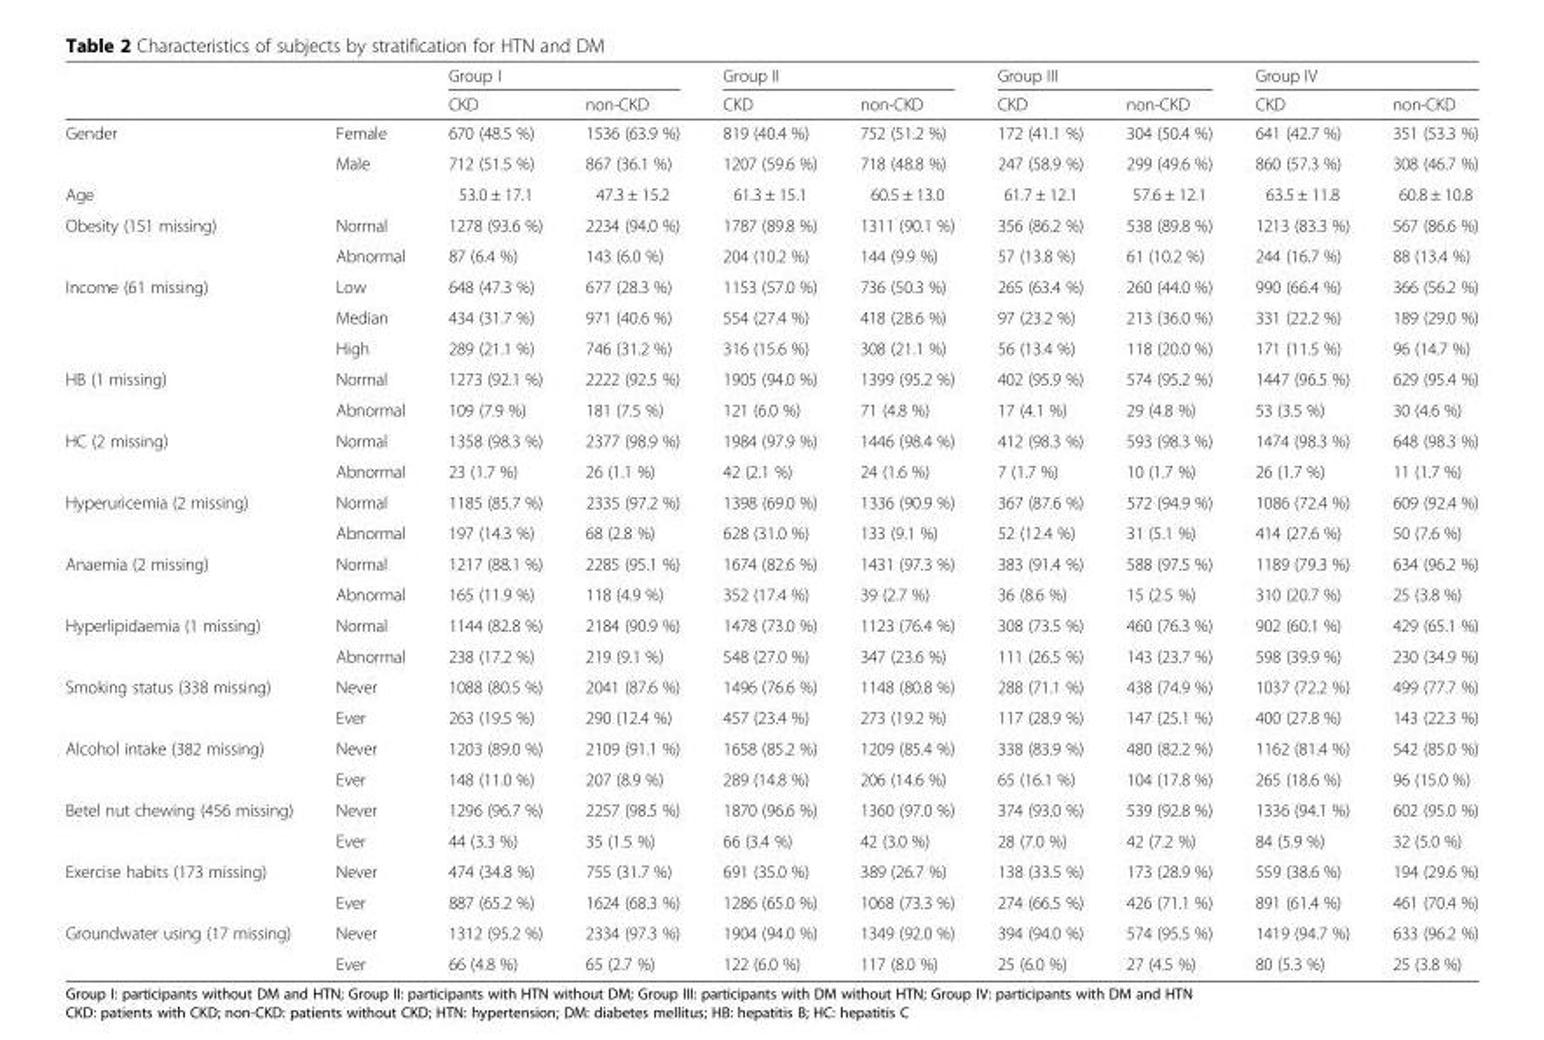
<table><thead><tr><td rowspan="2"></td><td rowspan="2"></td><td colspan="2">Group I</td><td colspan="2">Group II</td><td colspan="2">Group III</td><td colspan="2">Group IV</td></tr><tr><td>CKD</td><td>non-CKD</td><td>CKD</td><td>non-CKD</td><td>CKD</td><td>non-CKD</td><td>CKD</td><td>non-CKD</td></tr></thead><tbody><tr><td rowspan="2">Gender</td><td>Female</td><td>670 (48.5 %)</td><td>1536 (63.9 %)</td><td>819 (40.4 %)</td><td>752 (51.2 %)</td><td>172 (41.1 %)</td><td>304 (50.4 %)</td><td>641 (42.7 %)</td><td>351 (53.3 %)</td></tr><tr><td>Male</td><td>712 (51.5 %)</td><td>867 (36.1 %)</td><td>1207 (59.6 %)</td><td>718 (48.8 %)</td><td>247 (58.9 %)</td><td>299 (49.6 %)</td><td>860 (57.3 %)</td><td>308 (46.7 %)</td></tr><tr><td>Age</td><td></td><td>53.0 ± 17.1</td><td>47.3 ± 15.2</td><td>61.3 ± 15.1</td><td>60.5 ± 13.0</td><td>61.7 ± 12.1</td><td>57.6 ± 12.1</td><td>63.5 ± 11.8</td><td>60.8 ± 10.8</td></tr><tr><td rowspan="2">Obesity (151 missing)</td><td>Normal</td><td>1278 (93.6 %)</td><td>2234 (94.0 %)</td><td>1787 (89.8 %)</td><td>1311 (90.1 %)</td><td>356 (86.2 %)</td><td>538 (89.8 %)</td><td>1213 (83.3 %)</td><td>567 (86.6 %)</td></tr><tr><td>Abnormal</td><td>87 (6.4 %)</td><td>143 (6.0 %)</td><td>204 (10.2 %)</td><td>144 (9.9 %)</td><td>57 (13.8 %)</td><td>61 (10.2 %)</td><td>244 (16.7 %)</td><td>88 (13.4 %)</td></tr><tr><td rowspan="3">Income (61 missing)</td><td>Low</td><td>648 (47.3 %)</td><td>677 (28.3 %)</td><td>1153 (57.0 %)</td><td>736 (50.3 %)</td><td>265 (63.4 %)</td><td>260 (44.0 %)</td><td>990 (66.4 %)</td><td>366 (56.2 %)</td></tr><tr><td>Median</td><td>434 (31.7 %)</td><td>971 (40.6 %)</td><td>554 (27.4 %)</td><td>418 (28.6 %)</td><td>97 (23.2 %)</td><td>213 (36.0 %)</td><td>331 (22.2 %)</td><td>189 (29.0 %)</td></tr><tr><td>High</td><td>289 (21.1 %)</td><td>746 (31.2 %)</td><td>316 (15.6 %)</td><td>308 (21.1 %)</td><td>56 (13.4 %)</td><td>118 (20.0 %)</td><td>171 (11.5 %)</td><td>96 (14.7 %)</td></tr><tr><td rowspan="2">HB (1 missing)</td><td>Normal</td><td>1273 (92.1 %)</td><td>2222 (92.5 %)</td><td>1905 (94.0 %)</td><td>1399 (95.2 %)</td><td>402 (95.9 %)</td><td>574 (95.2 %)</td><td>1447 (96.5 %)</td><td>629 (95.4 %)</td></tr><tr><td>Abnormal</td><td>109 (7.9 %)</td><td>181 (7.5 %)</td><td>121 (6.0 %)</td><td>71 (4.8 %)</td><td>17 (4.1 %)</td><td>29 (4.8 %)</td><td>53 (3.5 %)</td><td>30 (4.6 %)</td></tr><tr><td rowspan="2">HC (2 missing)</td><td>Normal</td><td>1358 (98.3 %)</td><td>2377 (98.9 %)</td><td>1984 (97.9 %)</td><td>1446 (98.4 %)</td><td>412 (98.3 %)</td><td>593 (98.3 %)</td><td>1474 (98.3 %)</td><td>648 (98.3 %)</td></tr><tr><td>Abnormal</td><td>23 (1.7 %)</td><td>26 (1.1 %)</td><td>42 (2.1 %)</td><td>24 (1.6 %)</td><td>7 (1.7 %)</td><td>10 (1.7 %)</td><td>26 (1.7 %)</td><td>11 (1.7 %)</td></tr><tr><td rowspan="2">Hyperuricemia (2 missing)</td><td>Normal</td><td>1185 (85.7 %)</td><td>2335 (97.2 %)</td><td>1398 (69.0 %)</td><td>1336 (90.9 %)</td><td>367 (87.6 %)</td><td>572 (94.9 %)</td><td>1086 (72.4 %)</td><td>609 (92.4 %)</td></tr><tr><td>Abnormal</td><td>197 (14.3 %)</td><td>68 (2.8 %)</td><td>628 (31.0 %)</td><td>133 (9.1 %)</td><td>52 (12.4 %)</td><td>31 (5.1 %)</td><td>414 (27.6 %)</td><td>50 (7.6 %)</td></tr><tr><td rowspan="2">Anaemia (2 missing)</td><td>Normal</td><td>1217 (88.1 %)</td><td>2285 (95.1 %)</td><td>1674 (82.6 %)</td><td>1431 (97.3 %)</td><td>383 (91.4 %)</td><td>588 (97.5 %)</td><td>1189 (79.3 %)</td><td>634 (96.2 %)</td></tr><tr><td>Abnormal</td><td>165 (11.9 %)</td><td>118 (4.9 %)</td><td>352 (17.4 %)</td><td>39 (2.7 %)</td><td>36 (8.6 %)</td><td>15 (2.5 %)</td><td>310 (20.7 %)</td><td>25 (3.8 %)</td></tr><tr><td rowspan="2">Hyperlipidaemia (1 missing)</td><td>Normal</td><td>1144 (82.8 %)</td><td>2184 (90.9 %)</td><td>1478 (73.0 %)</td><td>1123 (76.4 %)</td><td>308 (73.5 %)</td><td>460 (76.3 %)</td><td>902 (60.1 %)</td><td>429 (65.1 %)</td></tr><tr><td>Abnormal</td><td>238 (17.2 %)</td><td>219 (9.1 %)</td><td>548 (27.0 %)</td><td>347 (23.6 %)</td><td>111 (26.5 %)</td><td>143 (23.7 %)</td><td>598 (39.9 %)</td><td>230 (34.9 %)</td></tr><tr><td rowspan="2">Smoking status (338 missing)</td><td>Never</td><td>1088 (80.5 %)</td><td>2041 (87.6 %)</td><td>1496 (76.6 %)</td><td>1148 (80.8 %)</td><td>288 (71.1 %)</td><td>438 (74.9 %)</td><td>1037 (72.2 %)</td><td>499 (77.7 %)</td></tr><tr><td>Ever</td><td>263 (19.5 %)</td><td>290 (12.4 %)</td><td>457 (23.4 %)</td><td>273 (19.2 %)</td><td>117 (28.9 %)</td><td>147 (25.1 %)</td><td>400 (27.8 %)</td><td>143 (22.3 %)</td></tr><tr><td rowspan="2">Alcohol intake (382 missing)</td><td>Never</td><td>1203 (89.0 %)</td><td>2109 (91.1 %)</td><td>1658 (85.2 %)</td><td>1209 (85.4 %)</td><td>338 (83.9 %)</td><td>480 (82.2 %)</td><td>1162 (81.4 %)</td><td>542 (85.0 %)</td></tr><tr><td>Ever</td><td>148 (11.0 %)</td><td>207 (8.9 %)</td><td>289 (14.8 %)</td><td>206 (14.6 %)</td><td>65 (16.1 %)</td><td>104 (17.8 %)</td><td>265 (18.6 %)</td><td>96 (15.0 %)</td></tr><tr><td rowspan="2">Betel nut chewing (456 missing)</td><td>Never</td><td>1296 (96.7 %)</td><td>2257 (98.5 %)</td><td>1870 (96.6 %)</td><td>1360 (97.0 %)</td><td>374 (93.0 %)</td><td>539 (92.8 %)</td><td>1336 (94.1 %)</td><td>602 (95.0 %)</td></tr><tr><td>Ever</td><td>44 (3.3 %)</td><td>35 (1.5 %)</td><td>66 (3.4 %)</td><td>42 (3.0 %)</td><td>28 (7.0 %)</td><td>42 (7.2 %)</td><td>84 (5.9 %)</td><td>32 (5.0 %)</td></tr><tr><td rowspan="2">Exercise habits (173 missing)</td><td>Never</td><td>474 (34.8 %)</td><td>755 (31.7 %)</td><td>691 (35.0 %)</td><td>389 (26.7 %)</td><td>138 (33.5 %)</td><td>173 (28.9 %)</td><td>559 (38.6 %)</td><td>194 (29.6 %)</td></tr><tr><td>Ever</td><td>887 (65.2 %)</td><td>1624 (68.3 %)</td><td>1286 (65.0 %)</td><td>1068 (73.3 %)</td><td>274 (66.5 %)</td><td>426 (71.1 %)</td><td>891 (61.4 %)</td><td>461 (70.4 %)</td></tr><tr><td rowspan="2">Groundwater using (17 missing)</td><td>Never</td><td>1312 (95.2 %)</td><td>2334 (97.3 %)</td><td>1904 (94.0 %)</td><td>1349 (92.0 %)</td><td>394 (94.0 %)</td><td>574 (95.5 %)</td><td>1419 (94.7 %)</td><td>633 (96.2 %)</td></tr><tr><td>Ever</td><td>66 (4.8 %)</td><td>65 (2.7 %)</td><td>122 (6.0 %)</td><td>117 (8.0 %)</td><td>25 (6.0 %)</td><td>27 (4.5 %)</td><td>80 (5.3 %)</td><td>25 (3.8 %)</td></tr></tbody></table>